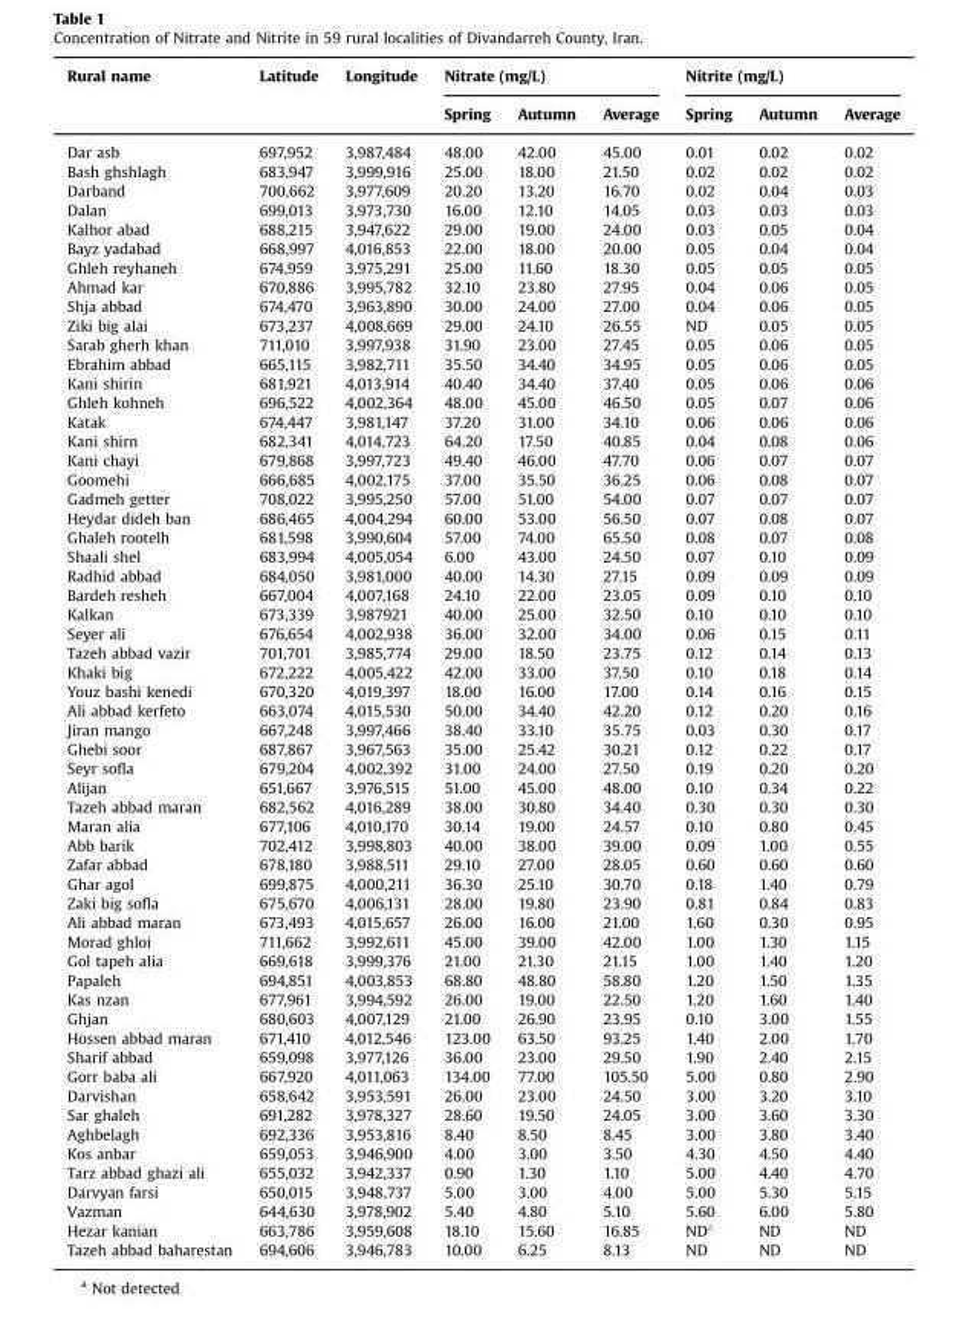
<table><thead><tr><td rowspan="2">Rural name</td><td rowspan="2">Latitude</td><td rowspan="2">Longitude</td><td colspan="3">Nitrate (mg/L)</td><td colspan="3">Nitrite (mg/L)</td></tr><tr><td>Spring</td><td>Autumn</td><td>Average</td><td>Spring</td><td>Autumn</td><td>Average</td></tr></thead><tbody><tr><td>Dar asb</td><td>697,952</td><td>3,987,484</td><td>48.00</td><td>42.00</td><td>45.00</td><td>0.01</td><td>0.02</td><td>0.02</td></tr><tr><td>Bash ghshlagh</td><td>683,947</td><td>3,999,916</td><td>25.00</td><td>18.00</td><td>21.50</td><td>0.02</td><td>0.02</td><td>0.02</td></tr><tr><td>Darband</td><td>700,662</td><td>3,977,609</td><td>20.20</td><td>13.20</td><td>16.70</td><td>0.02</td><td>0.04</td><td>0.03</td></tr><tr><td>Dalan</td><td>699,013</td><td>3,973,730</td><td>16.00</td><td>12.10</td><td>14.05</td><td>0.03</td><td>0.03</td><td>0.03</td></tr><tr><td>Kalhor abad</td><td>688,215</td><td>3,947,622</td><td>29.00</td><td>19.00</td><td>24.00</td><td>0.03</td><td>0.05</td><td>0.04</td></tr><tr><td>Bayz yadabad</td><td>668,997</td><td>4,016,853</td><td>22.00</td><td>18.00</td><td>20.00</td><td>0.05</td><td>0.04</td><td>0.04</td></tr><tr><td>Ghleh reyhaneh</td><td>674,959</td><td>3,975,291</td><td>25.00</td><td>11.60</td><td>18.30</td><td>0.05</td><td>0.05</td><td>0.05</td></tr><tr><td>Ahmad kar</td><td>670,886</td><td>3,995,782</td><td>32.10</td><td>23.80</td><td>27.95</td><td>0.04</td><td>0.06</td><td>0.05</td></tr><tr><td>Shja abbad</td><td>674,470</td><td>3,963,890</td><td>30.00</td><td>24.00</td><td>27.00</td><td>0.04</td><td>0.06</td><td>0.05</td></tr><tr><td>Ziki big alai</td><td>673,237</td><td>4,008,669</td><td>29.00</td><td>24.10</td><td>26.55</td><td>ND</td><td>0.05</td><td>0.05</td></tr><tr><td>Sarab gherh khan</td><td>711,010</td><td>3,997,938</td><td>31.90</td><td>23.00</td><td>27.45</td><td>0.05</td><td>0.06</td><td>0.05</td></tr><tr><td>Ebrahim abbad</td><td>665,115</td><td>3,982,711</td><td>35.50</td><td>34.40</td><td>34.95</td><td>0.05</td><td>0.06</td><td>0.05</td></tr><tr><td>Kani shirin</td><td>681,921</td><td>4,013,914</td><td>40.40</td><td>34.40</td><td>37.40</td><td>0.05</td><td>0.06</td><td>0.06</td></tr><tr><td>Ghleh kohneh</td><td>696,522</td><td>4,002,364</td><td>48.00</td><td>45.00</td><td>46.50</td><td>0.05</td><td>0.07</td><td>0.06</td></tr><tr><td>Katak</td><td>674,447</td><td>3,981,147</td><td>37.20</td><td>31.00</td><td>34.10</td><td>0.06</td><td>0.06</td><td>0.06</td></tr><tr><td>Kani shirn</td><td>682,341</td><td>4,014,723</td><td>64.20</td><td>17.50</td><td>40.85</td><td>0.04</td><td>0.08</td><td>0.06</td></tr><tr><td>Kani chayi</td><td>679,868</td><td>3,997,723</td><td>49.40</td><td>46.00</td><td>47.70</td><td>0.06</td><td>0.07</td><td>0.07</td></tr><tr><td>Goomehi</td><td>666,685</td><td>4,002,175</td><td>37.00</td><td>35.50</td><td>36.25</td><td>0.06</td><td>0.08</td><td>0.07</td></tr><tr><td>Gadmeh getter</td><td>708,022</td><td>3,995,250</td><td>57.00</td><td>51.00</td><td>54.00</td><td>0.07</td><td>0.07</td><td>0.07</td></tr><tr><td>Heydar dideh ban</td><td>686,465</td><td>4,004,294</td><td>60.00</td><td>53.00</td><td>56.50</td><td>0.07</td><td>0.08</td><td>0.07</td></tr><tr><td>Ghaleh rootelh</td><td>681,598</td><td>3,990,604</td><td>57.00</td><td>74.00</td><td>65.50</td><td>0.08</td><td>0.07</td><td>0.08</td></tr><tr><td>Shaali shel</td><td>683,994</td><td>4,005,054</td><td>6.00</td><td>43.00</td><td>24.50</td><td>0.07</td><td>0.10</td><td>0.09</td></tr><tr><td>Radhid abbad</td><td>684,050</td><td>3,981,000</td><td>40.00</td><td>14.30</td><td>27.15</td><td>0.09</td><td>0.09</td><td>0.09</td></tr><tr><td>Bardeh resheh</td><td>667,004</td><td>4,007,168</td><td>24.10</td><td>22.00</td><td>23.05</td><td>0.09</td><td>0.10</td><td>0.10</td></tr><tr><td>Kalkan</td><td>673,339</td><td>3,987921</td><td>40.00</td><td>25.00</td><td>32.50</td><td>0.10</td><td>0.10</td><td>0.10</td></tr><tr><td>Seyer ali</td><td>676,654</td><td>4,002,938</td><td>36.00</td><td>32.00</td><td>34.00</td><td>0.06</td><td>0.15</td><td>0.11</td></tr><tr><td>Tazeh abbad vazir</td><td>701,701</td><td>3,985,774</td><td>29.00</td><td>18.50</td><td>23.75</td><td>0.12</td><td>0.14</td><td>0.13</td></tr><tr><td>Khaki big</td><td>672,222</td><td>4,005,422</td><td>42.00</td><td>33.00</td><td>37.50</td><td>0.10</td><td>0.18</td><td>0.14</td></tr><tr><td>Youz bashi kenedi</td><td>670,320</td><td>4,019,397</td><td>18.00</td><td>16.00</td><td>17.00</td><td>0.14</td><td>0.16</td><td>0.15</td></tr><tr><td>Ali abbad kerfeto</td><td>663,074</td><td>4,015,530</td><td>50.00</td><td>34.40</td><td>42.20</td><td>0.12</td><td>0.20</td><td>0.16</td></tr><tr><td>Jiran mango</td><td>667,248</td><td>3,997,466</td><td>38.40</td><td>33.10</td><td>35.75</td><td>0.03</td><td>0.30</td><td>0.17</td></tr><tr><td>Ghebi soor</td><td>687,867</td><td>3,967,563</td><td>35.00</td><td>25.42</td><td>30.21</td><td>0.12</td><td>0.22</td><td>0.17</td></tr><tr><td>Seyr sofla</td><td>679,204</td><td>4,002,392</td><td>31.00</td><td>24.00</td><td>27.50</td><td>0.19</td><td>0.20</td><td>0.20</td></tr><tr><td>Alijan</td><td>651,667</td><td>3,976,515</td><td>51.00</td><td>45.00</td><td>48.00</td><td>0.10</td><td>0.34</td><td>0.22</td></tr><tr><td>Tazeh abbad maran</td><td>682,562</td><td>4,016,289</td><td>38.00</td><td>30.80</td><td>34.40</td><td>0.30</td><td>0.30</td><td>0.30</td></tr><tr><td>Maran alia</td><td>677,106</td><td>4,010,170</td><td>30.14</td><td>19.00</td><td>24.57</td><td>0.10</td><td>0.80</td><td>0.45</td></tr><tr><td>Abb barik</td><td>702,412</td><td>3,998,803</td><td>40.00</td><td>38.00</td><td>39.00</td><td>0.09</td><td>1.00</td><td>0.55</td></tr><tr><td>Zafar abbad</td><td>678,180</td><td>3,988,511</td><td>29.10</td><td>27.00</td><td>28.05</td><td>0.60</td><td>0.60</td><td>0.60</td></tr><tr><td>Ghar agol</td><td>699,875</td><td>4,000,211</td><td>36.30</td><td>25.10</td><td>30.70</td><td>0.18</td><td>1.40</td><td>0.79</td></tr><tr><td>Zaki big sofla</td><td>675,670</td><td>4,006,131</td><td>28.00</td><td>19.80</td><td>23.90</td><td>0.81</td><td>0.84</td><td>0.83</td></tr><tr><td>Ali abbad maran</td><td>673,493</td><td>4,015,657</td><td>26.00</td><td>16.00</td><td>21.00</td><td>1.60</td><td>0.30</td><td>0.95</td></tr><tr><td>Morad ghloi</td><td>711,662</td><td>3,992,611</td><td>45.00</td><td>39.00</td><td>42.00</td><td>1.00</td><td>1.30</td><td>1.15</td></tr><tr><td>Gol tapeh alia</td><td>669,618</td><td>3,999,376</td><td>21.00</td><td>21.30</td><td>21.15</td><td>1.00</td><td>1.40</td><td>1.20</td></tr><tr><td>Papaleh</td><td>694,851</td><td>4,003,853</td><td>68.80</td><td>48.80</td><td>58.80</td><td>1.20</td><td>1.50</td><td>1.35</td></tr><tr><td>Kas nzan</td><td>677,961</td><td>3,994,592</td><td>26.00</td><td>19.00</td><td>22.50</td><td>1.20</td><td>1.60</td><td>1.40</td></tr><tr><td>Ghjan</td><td>680,603</td><td>4,007,129</td><td>21.00</td><td>26.90</td><td>23.95</td><td>0.10</td><td>3.00</td><td>1.55</td></tr><tr><td>Hossen abbad maran</td><td>671,410</td><td>4,012,546</td><td>123.00</td><td>63.50</td><td>93.25</td><td>1.40</td><td>2.00</td><td>1.70</td></tr><tr><td>Sharif abbad</td><td>659,098</td><td>3,977,126</td><td>36.00</td><td>23.00</td><td>29.50</td><td>1.90</td><td>2.40</td><td>2.15</td></tr><tr><td>Gorr baba ali</td><td>667,920</td><td>4,011,063</td><td>134.00</td><td>77.00</td><td>105.50</td><td>5.00</td><td>0.80</td><td>2.90</td></tr><tr><td>Darvishan</td><td>658,642</td><td>3,953,591</td><td>26.00</td><td>23.00</td><td>24.50</td><td>3.00</td><td>3.20</td><td>3.10</td></tr><tr><td>Sar ghaleh</td><td>691,282</td><td>3,978,327</td><td>28.60</td><td>19.50</td><td>24.05</td><td>3.00</td><td>3.60</td><td>3.30</td></tr><tr><td>Aghbelagh</td><td>692,336</td><td>3,953,816</td><td>8.40</td><td>8.50</td><td>8.45</td><td>3.00</td><td>3.80</td><td>3.40</td></tr><tr><td>Kos anbar</td><td>659,053</td><td>3,946,900</td><td>4.00</td><td>3.00</td><td>3.50</td><td>4.30</td><td>4.50</td><td>4.40</td></tr><tr><td>Tarz abbad ghazi ali</td><td>655,032</td><td>3,942,337</td><td>0.90</td><td>1.30</td><td>1.10</td><td>5.00</td><td>4.40</td><td>4.70</td></tr><tr><td>Darvyan farsi</td><td>650,015</td><td>3,948,737</td><td>5.00</td><td>3.00</td><td>4.00</td><td>5.00</td><td>5.30</td><td>5.15</td></tr><tr><td>Vazman</td><td>644,630</td><td>3,978,902</td><td>5.40</td><td>4.80</td><td>5.10</td><td>5.60</td><td>6.00</td><td>5.80</td></tr><tr><td>Hezar kanian</td><td>663,786</td><td>3,959,608</td><td>18.10</td><td>15.60</td><td>16.85</td><td>ND<sup>a</sup></td><td>ND</td><td>ND</td></tr><tr><td>Tazeh abbad baharestan</td><td>694,606</td><td>3,946,783</td><td>10.00</td><td>6.25</td><td>8.13</td><td>ND</td><td>ND</td><td>ND</td></tr></tbody></table>